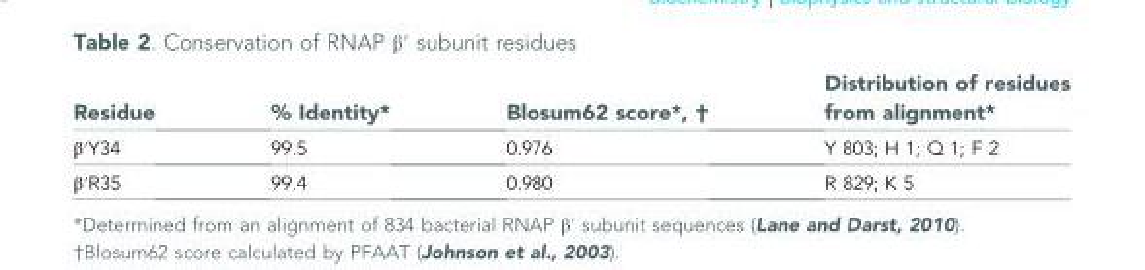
<table><thead><tr><td>Residue</td><td>% Identity*</td><td>Blosum62 score*, †</td><td>Distribution of residues from alignment*</td></tr></thead><tbody><tr><td>β′Y34</td><td>99.5</td><td>0.976</td><td>Y 803; H 1; Q 1; F 2</td></tr><tr><td>β′R35</td><td>99.4</td><td>0.980</td><td>R 829; K 5</td></tr></tbody></table>